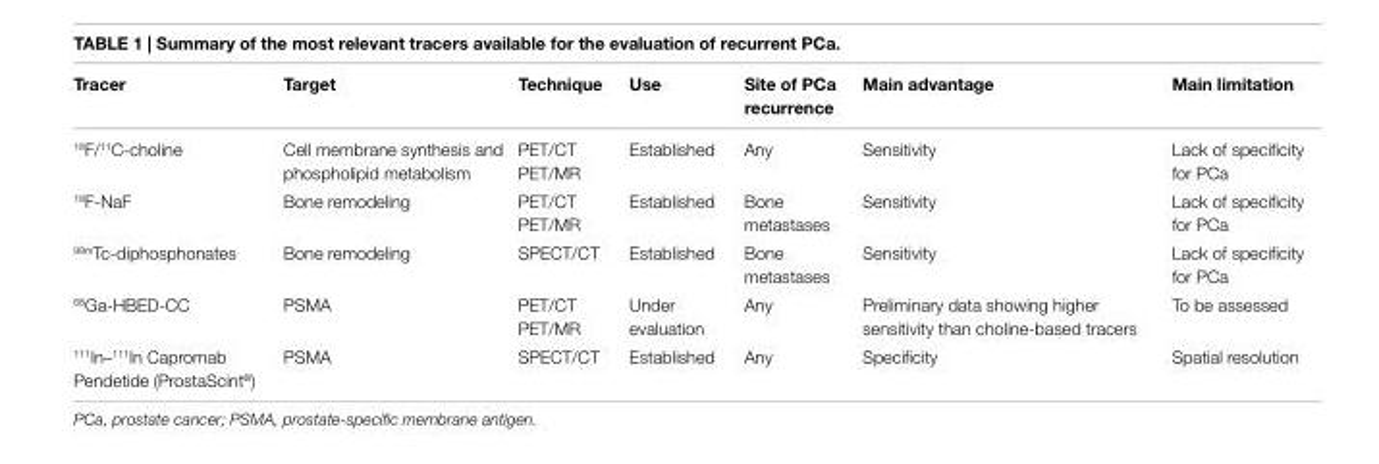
<table><thead><tr><td>Tracer</td><td>Target</td><td>Technique</td><td>Use</td><td>Site of PCa recurrence</td><td>Main advantage</td><td>Main limitation</td></tr></thead><tbody><tr><td><sup>18</sup>F/<sup>11</sup>C-choline</td><td>Cell membrane synthesis and phospholipid metabolism</td><td>PET/CT PET/MR</td><td>Established</td><td>Any</td><td>Sensitivity</td><td>Lack of specificity for PCa</td></tr><tr><td><sup>18</sup>F-NaF</td><td>Bone remodeling</td><td>PET/CT PET/MR</td><td>Established</td><td>Bone metastases</td><td>Sensitivity</td><td>Lack of specificity for PCa</td></tr><tr><td><sup>99m</sup>Tc-diphosphonates</td><td>Bone remodeling</td><td>SPECT/CT</td><td>Established</td><td>Bone metastases</td><td>Sensitivity</td><td>Lack of specificity for PCa</td></tr><tr><td><sup>68</sup>Ga-HBED-CC</td><td>PSMA</td><td>PET/CT PET/MR</td><td>Under evaluation</td><td>Any</td><td>Preliminary data showing higher sensitivity than choline-based tracers</td><td>To be assessed</td></tr><tr><td><sup>111</sup>In–<sup>111</sup>In Capromab Pendetide (ProstaScint<sup>®</sup>)</td><td>PSMA</td><td>SPECT/CT</td><td>Established</td><td>Any</td><td>Specificity</td><td>Spatial resolution</td></tr></tbody></table>